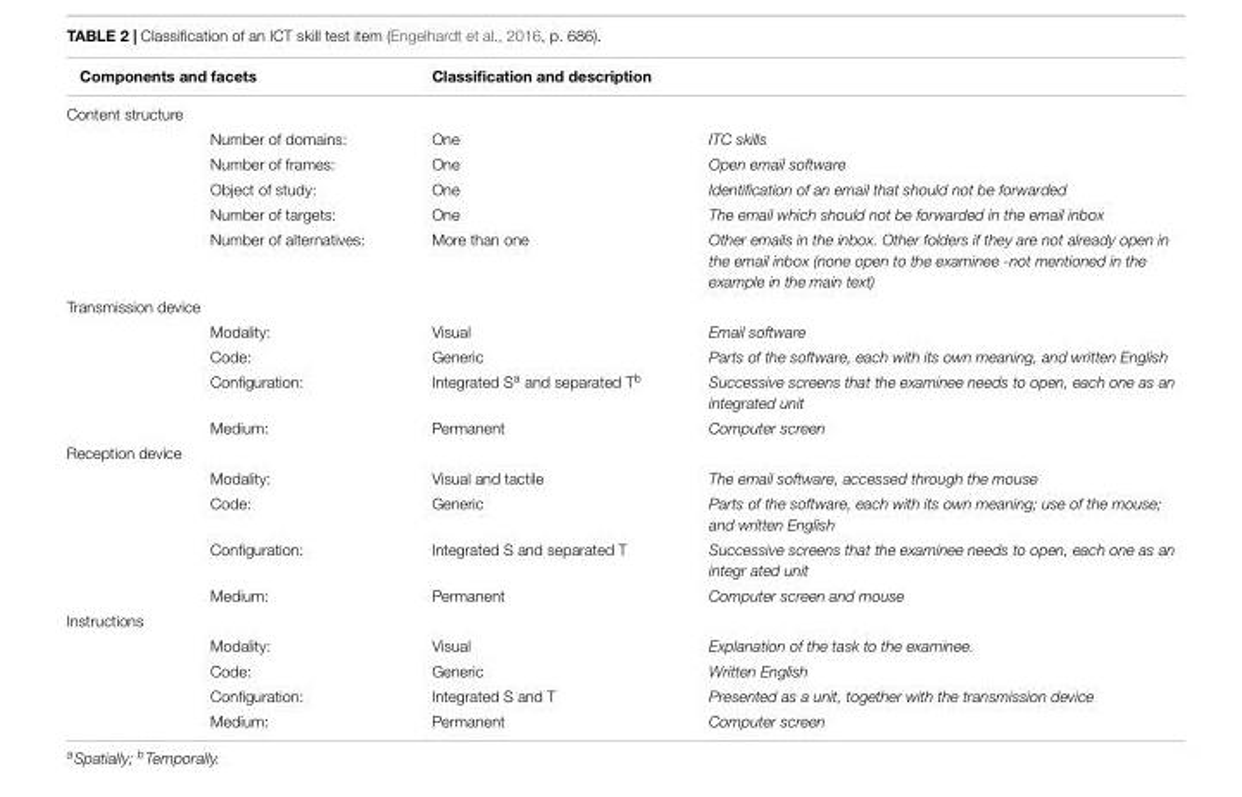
<table><thead><tr><td colspan="2">Components and facets</td><td colspan="2">Classification and description</td></tr><tr><td colspan="4">Content structure</td></tr><tr><td></td><td>Number of domains:</td><td>One</td><td>ITC skills</td></tr></thead><tbody><tr><td></td><td>Number of frames:</td><td>One</td><td>Open email software</td></tr><tr><td></td><td>Object of study:</td><td>One</td><td>Identification of an email that should not be forwarded</td></tr><tr><td></td><td>Number of targets:</td><td>One</td><td>The email which should not be forwarded in the email inbox</td></tr><tr><td></td><td>Number of alternatives:</td><td>More than one</td><td>Other emails in the inbox. Other folders if they are not already open in the email inbox (none open to the examinee -not mentioned in the example in the main text)</td></tr><tr><td colspan="4">Transmission device</td></tr><tr><td></td><td>Modality:</td><td>Visual</td><td>Email software</td></tr><tr><td></td><td>Code:</td><td>Generic</td><td>Parts of the software, each with its own meaning, and written English</td></tr><tr><td></td><td>Configuration:</td><td>Integrated S<sup>a</sup> and separated T<sup>b</sup></td><td>Successive screens that the examinee needs to open, each one as an integrated unit</td></tr><tr><td></td><td>Medium:</td><td>Permanent</td><td>Computer screen</td></tr><tr><td colspan="4">Reception device</td></tr><tr><td></td><td>Modality:</td><td>Visual and tactile</td><td>The email software, accessed through the mouse</td></tr><tr><td></td><td>Code:</td><td>Generic</td><td>Parts of the software, each with its own meaning; use of the mouse; and written English</td></tr><tr><td></td><td>Configuration:</td><td>Integrated S and separated T</td><td>Successive screens that the examinee needs to open, each one as an integr ated unit</td></tr><tr><td></td><td>Medium:</td><td>Permanent</td><td>Computer screen and mouse</td></tr><tr><td colspan="4">Instructions</td></tr><tr><td></td><td>Modality:</td><td>Visual</td><td>Explanation of the task to the examinee.</td></tr><tr><td></td><td>Code:</td><td>Generic</td><td>Written English</td></tr><tr><td></td><td>Configuration:</td><td>Integrated S and T</td><td>Presented as a unit, together with the transmission device</td></tr><tr><td></td><td>Medium:</td><td>Permanent</td><td>Computer screen</td></tr></tbody></table>